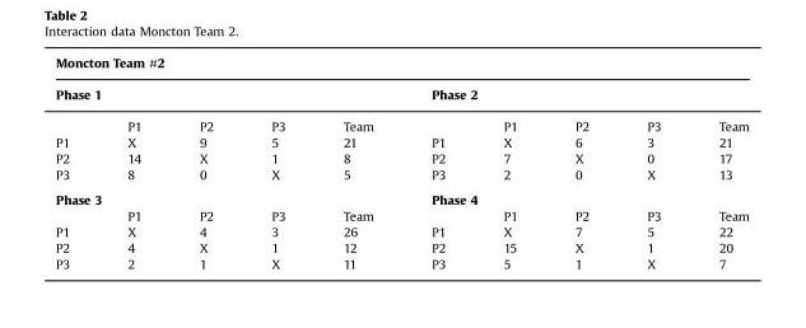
<table><thead><tr><td colspan="10">Moncton Team #2</td></tr><tr><td colspan="5">Phase 1</td><td colspan="5">Phase 2</td></tr><tr><td></td><td>P1</td><td>P2</td><td>P3</td><td>Team</td><td></td><td>P1</td><td>P2</td><td>P3</td><td>Team</td></tr></thead><tbody><tr><td>P1</td><td>X</td><td>9</td><td>5</td><td>21</td><td>P1</td><td>X</td><td>6</td><td>3</td><td>21</td></tr><tr><td>P2</td><td>14</td><td>X</td><td>1</td><td>8</td><td>P2</td><td>7</td><td>X</td><td>0</td><td>17</td></tr><tr><td>P3</td><td>8</td><td>0</td><td>X</td><td>5</td><td>P3</td><td>2</td><td>0</td><td>X</td><td>13</td></tr><tr><td colspan="5">Phase 3</td><td colspan="5">Phase 4</td></tr><tr><td></td><td>P1</td><td>P2</td><td>P3</td><td>Team</td><td></td><td>P1</td><td>P2</td><td>P3</td><td>Team</td></tr><tr><td>P1</td><td>X</td><td>4</td><td>3</td><td>26</td><td>P1</td><td>X</td><td>7</td><td>5</td><td>22</td></tr><tr><td>P2</td><td>4</td><td>X</td><td>1</td><td>12</td><td>P2</td><td>15</td><td>X</td><td>1</td><td>20</td></tr><tr><td>P3</td><td>2</td><td>1</td><td>X</td><td>11</td><td>P3</td><td>5</td><td>1</td><td>X</td><td>7</td></tr></tbody></table>